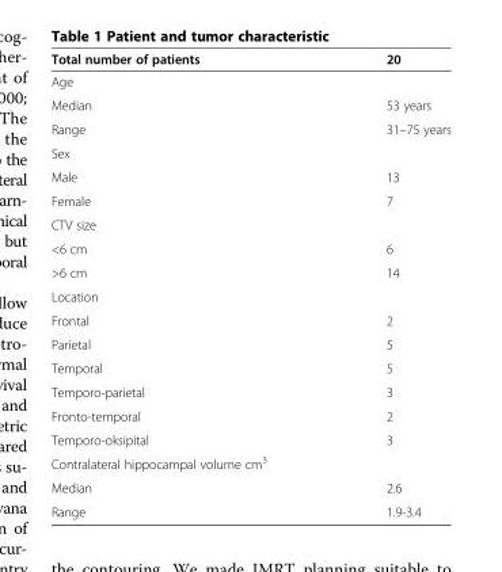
<table><thead><tr><td>Total number of patients</td><td>20</td></tr></thead><tbody><tr><td colspan="2">Age</td></tr><tr><td>Median</td><td>53 years</td></tr><tr><td>Range</td><td>31–75 years</td></tr><tr><td colspan="2">Sex</td></tr><tr><td>Male</td><td>13</td></tr><tr><td>Female</td><td>7</td></tr><tr><td colspan="2">CTV size</td></tr><tr><td>&lt;6 cm</td><td>6</td></tr><tr><td>&gt;6 cm</td><td>14</td></tr><tr><td colspan="2">Location</td></tr><tr><td>Frontal</td><td>2</td></tr><tr><td>Parietal</td><td>5</td></tr><tr><td>Temporal</td><td>5</td></tr><tr><td>Temporo-parietal</td><td>3</td></tr><tr><td>Fronto-temporal</td><td>2</td></tr><tr><td>Temporo-oksipital</td><td>3</td></tr><tr><td colspan="2">Contralateral hippocampal volume cm<sup>3</sup></td></tr><tr><td>Median</td><td>2.6</td></tr><tr><td>Range</td><td>1.9-3.4</td></tr></tbody></table>